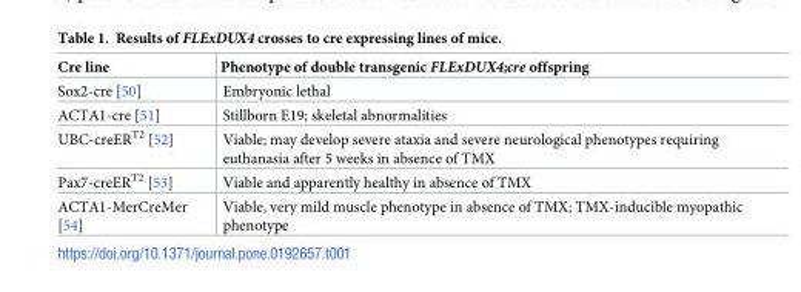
<table><thead><tr><td>Cre line</td><td>Phenotype of double transgenic FLExDUX4;cre offspring</td></tr></thead><tbody><tr><td>Sox2-cre [50]</td><td>Embryonic lethal</td></tr><tr><td>ACTA1-cre [51]</td><td>Stillborn E19; skeletal abnormalities</td></tr><tr><td>UBC-creER<sup>T2</sup> [52]</td><td>Viable; may develop severe ataxia and severe neurological phenotypes requiring euthanasia after 5 weeks in absence of TMX</td></tr><tr><td>Pax7-creER<sup>T2</sup> [53]</td><td>Viable and apparently healthy in absence of TMX</td></tr><tr><td>ACTA1-MerCreMer [54]</td><td>Viable, very mild muscle phenotype in absence of TMX; TMX-inducible myopathic phenotype</td></tr></tbody></table>